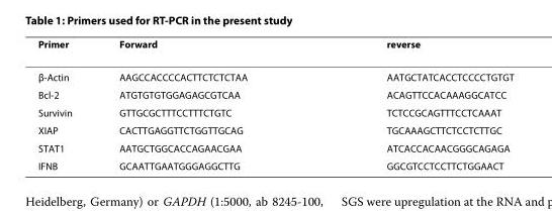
<table><thead><tr><td>Primer</td><td>Forward</td><td>reverse</td></tr></thead><tbody><tr><td>β-Actin</td><td>AAGCCACCCCACTTCTCTCTAA</td><td>AATGCTATCACCTCCCCTGTGT</td></tr><tr><td>Bcl-2</td><td>ATGTGTGTGGAGAGCGTCAA</td><td>ACAGTTCCACAAAGGCATCC</td></tr><tr><td>Survivin</td><td>GTTGCGCTTTCCTTTCTGTC</td><td>TCTCCGCAGTTTCCTCAAAT</td></tr><tr><td>XIAP</td><td>CACTTGAGGTTCTGGTTGCAG</td><td>TGCAAAGCTTCTCCTCTTGC</td></tr><tr><td>STAT1</td><td>AATGCTGGCACCAGAACGAA</td><td>ATCACCACAACGGGCAGAGA</td></tr><tr><td>IFNB</td><td>GCAATTGAATGGGAGGCTTG</td><td>GGCGTCCTCCTTCTGGAACT</td></tr></tbody></table>